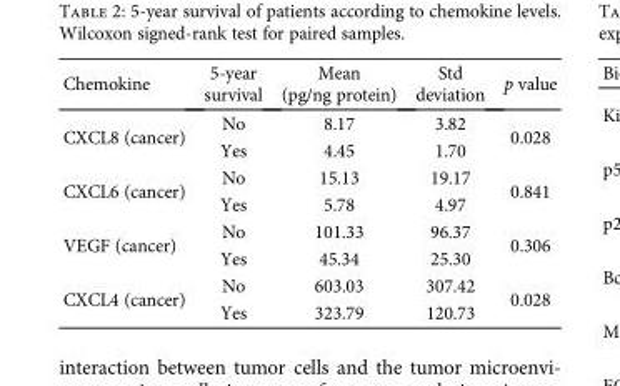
<table><thead><tr><td>Chemokine</td><td>5-year survival</td><td>Mean (pg/ng protein)</td><td>Std deviation</td><td>p value</td></tr></thead><tbody><tr><td rowspan="2">CXCL8 (cancer)</td><td>No</td><td>8.17</td><td>3.82</td><td rowspan="2">0.028</td></tr><tr><td>Yes</td><td>4.45</td><td>1.70</td></tr><tr><td rowspan="2">CXCL6 (cancer)</td><td>No</td><td>15.13</td><td>19.17</td><td rowspan="2">0.841</td></tr><tr><td>Yes</td><td>5.78</td><td>4.97</td></tr><tr><td rowspan="2">VEGF (cancer)</td><td>No</td><td>101.33</td><td>96.37</td><td rowspan="2">0.306</td></tr><tr><td>Yes</td><td>45.34</td><td>25.30</td></tr><tr><td rowspan="2">CXCL4 (cancer)</td><td>No</td><td>603.03</td><td>307.42</td><td rowspan="2">0.028</td></tr><tr><td>Yes</td><td>323.79</td><td>120.73</td></tr></tbody></table>